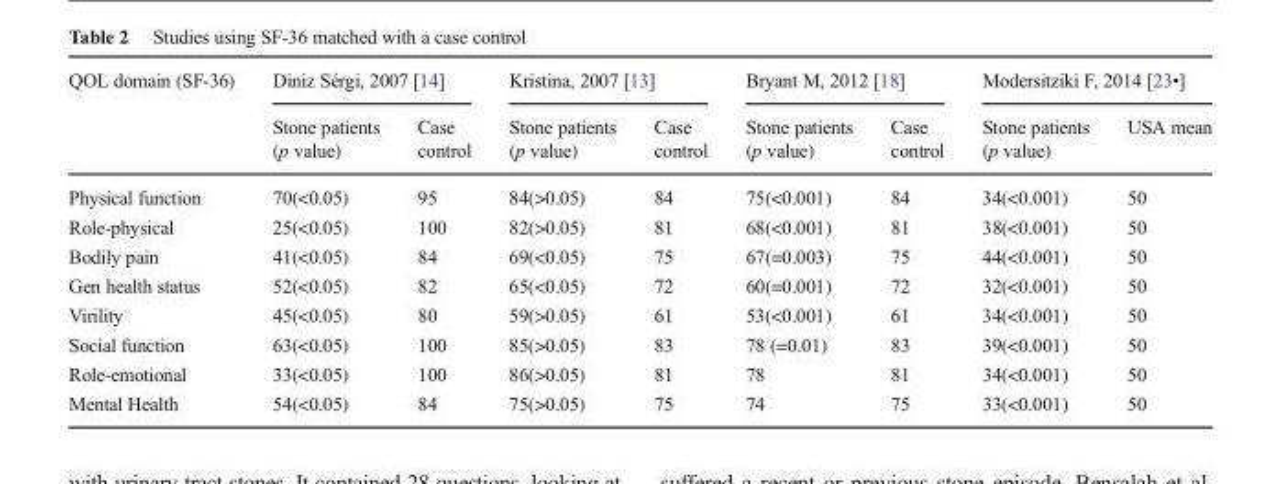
<table><thead><tr><td rowspan="2">QOL domain (SF-36)</td><td colspan="2">Diniz Sérgi, 2007 [14]</td><td colspan="2">Kristina, 2007 [13]</td><td colspan="2">Bryant M, 2012 [18]</td><td colspan="2">Modersitziki F, 2014 [23•]</td></tr><tr><td>Stone patients (p value)</td><td>Case control</td><td>Stone patients (p value)</td><td>Case control</td><td>Stone patients (p value)</td><td>Case control</td><td>Stone patients (p value)</td><td>USA mean</td></tr></thead><tbody><tr><td>Physical function</td><td>70(&lt;0.05)</td><td>95</td><td>84(&gt;0.05)</td><td>84</td><td>75(&lt;0.001)</td><td>84</td><td>34(&lt;0.001)</td><td>50</td></tr><tr><td>Role-physical</td><td>25(&lt;0.05)</td><td>100</td><td>82(&gt;0.05)</td><td>81</td><td>68(&lt;0.001)</td><td>81</td><td>38(&lt;0.001)</td><td>50</td></tr><tr><td>Bodily pain</td><td>41(&lt;0.05)</td><td>84</td><td>69(&lt;0.05)</td><td>75</td><td>67(=0.003)</td><td>75</td><td>44(&lt;0.001)</td><td>50</td></tr><tr><td>Gen health status</td><td>52(&lt;0.05)</td><td>82</td><td>65(&lt;0.05)</td><td>72</td><td>60(=0.001)</td><td>72</td><td>32(&lt;0.001)</td><td>50</td></tr><tr><td>Virility</td><td>45(&lt;0.05)</td><td>80</td><td>59(&gt;0.05)</td><td>61</td><td>53(&lt;0.001)</td><td>61</td><td>34(&lt;0.001)</td><td>50</td></tr><tr><td>Social function</td><td>63(&lt;0.05)</td><td>100</td><td>85(&gt;0.05)</td><td>83</td><td>78 (=0.01)</td><td>83</td><td>39(&lt;0.001)</td><td>50</td></tr><tr><td>Role-emotional</td><td>33(&lt;0.05)</td><td>100</td><td>86(&gt;0.05)</td><td>81</td><td>78</td><td>81</td><td>34(&lt;0.001)</td><td>50</td></tr><tr><td>Mental Health</td><td>54(&lt;0.05)</td><td>84</td><td>75(&gt;0.05)</td><td>75</td><td>74</td><td>75</td><td>33(&lt;0.001)</td><td>50</td></tr></tbody></table>